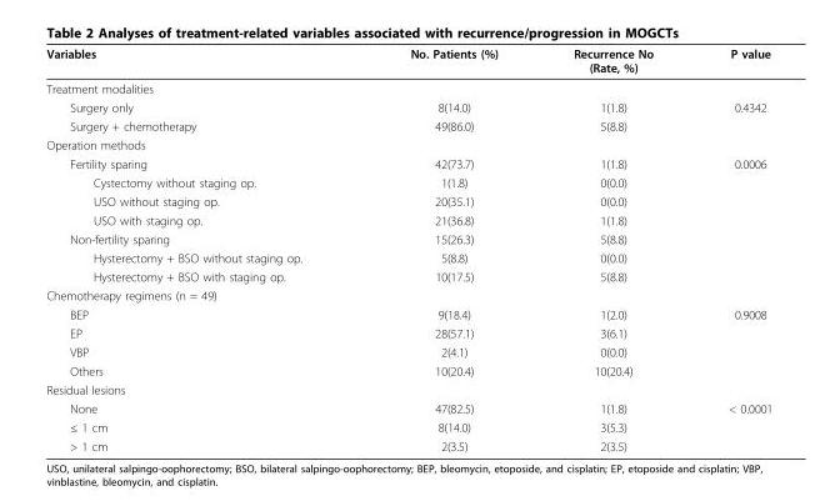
<table><thead><tr><td>Variables</td><td>No. Patients (%)</td><td>Recurrence No (Rate, %)</td><td>P value</td></tr></thead><tbody><tr><td colspan="4">Treatment modalities</td></tr><tr><td>Surgery only</td><td>8(14.0)</td><td>1(1.8)</td><td>0.4342</td></tr><tr><td>Surgery + chemotherapy</td><td>49(86.0)</td><td>5(8.8)</td><td></td></tr><tr><td colspan="4">Operation methods</td></tr><tr><td>Fertility sparing</td><td>42(73.7)</td><td>1(1.8)</td><td>0.0006</td></tr><tr><td>Cystectomy without staging op.</td><td>1(1.8)</td><td>0(0.0)</td><td></td></tr><tr><td>USO without staging op.</td><td>20(35.1)</td><td>0(0.0)</td><td></td></tr><tr><td>USO with staging op.</td><td>21(36.8)</td><td>1(1.8)</td><td></td></tr><tr><td>Non-fertility sparing</td><td>15(26.3)</td><td>5(8.8)</td><td></td></tr><tr><td>Hysterectomy + BSO without staging op.</td><td>5(8.8)</td><td>0(0.0)</td><td></td></tr><tr><td>Hysterectomy + BSO with staging op.</td><td>10(17.5)</td><td>5(8.8)</td><td></td></tr><tr><td colspan="4">Chemotherapy regimens (n = 49)</td></tr><tr><td>BEP</td><td>9(18.4)</td><td>1(2.0)</td><td>0.9008</td></tr><tr><td>EP</td><td>28(57.1)</td><td>3(6.1)</td><td></td></tr><tr><td>VBP</td><td>2(4.1)</td><td>0(0.0)</td><td></td></tr><tr><td>Others</td><td>10(20.4)</td><td>10(20.4)</td><td></td></tr><tr><td colspan="4">Residual lesions</td></tr><tr><td>None</td><td>47(82.5)</td><td>1(1.8)</td><td>&lt; 0.0001</td></tr><tr><td>≤ 1 cm</td><td>8(14.0)</td><td>3(5.3)</td><td></td></tr><tr><td>&gt; 1 cm</td><td>2(3.5)</td><td>2(3.5)</td><td></td></tr></tbody></table>